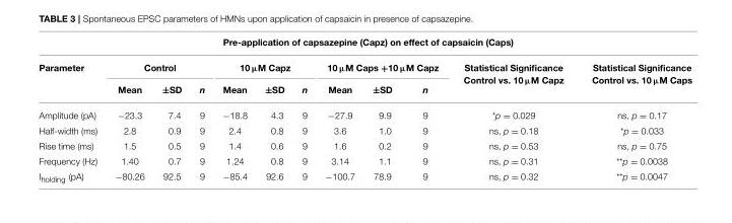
<table><thead><tr><td colspan="12">Pre-application of capsazepine (Capz) on effect of capsaicin (Caps)</td></tr><tr><td rowspan="2">Parameter</td><td colspan="3">Control</td><td colspan="3">10 µM Capz</td><td colspan="3">10 µM Caps +10 µM Capz</td><td rowspan="2">Statistical Significance Control vs. 10 µM Capz</td><td rowspan="2">Statistical Significance Control vs. 10 µM Caps</td></tr><tr><td>Mean</td><td>±SD</td><td>n</td><td>Mean</td><td>±SD</td><td>n</td><td>Mean</td><td>±SD</td><td>n</td></tr></thead><tbody><tr><td>Amplitude (pA)</td><td>−23.3</td><td>7.4</td><td>9</td><td>−18.8</td><td>4.3</td><td>9</td><td>−27.9</td><td>9.9</td><td>9</td><td>*p = 0.029</td><td>ns, p = 0.17</td></tr><tr><td>Half-width (ms)</td><td>2.8</td><td>0.9</td><td>9</td><td>2.4</td><td>0.8</td><td>9</td><td>3.6</td><td>1.0</td><td>9</td><td>ns, p = 0.18</td><td>*p = 0.033</td></tr><tr><td>Rise time (ms)</td><td>1.5</td><td>0.5</td><td>9</td><td>1.4</td><td>0.6</td><td>9</td><td>1.6</td><td>0.2</td><td>9</td><td>ns, p = 0.53</td><td>ns, p = 0.75</td></tr><tr><td>Frequency (Hz)</td><td>1.40</td><td>0.7</td><td>9</td><td>1.24</td><td>0.8</td><td>9</td><td>3.14</td><td>1.1</td><td>9</td><td>ns, p = 0.31</td><td>**p = 0.0038</td></tr><tr><td>I<sub>holding</sub> (pA)</td><td>−80.26</td><td>92.5</td><td>9</td><td>−85.4</td><td>92.6</td><td>9</td><td>−100.7</td><td>78.9</td><td>9</td><td>ns, p = 0.32</td><td>**p = 0.0047</td></tr></tbody></table>